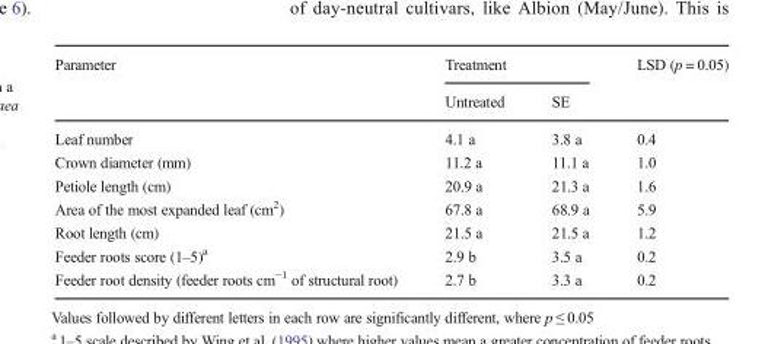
<table><thead><tr><td rowspan="2">Parameter</td><td colspan="2">Treatment</td><td rowspan="2">LSD (p = 0.05)</td></tr><tr><td>Untreated</td><td>SE</td></tr></thead><tbody><tr><td>Leaf number</td><td>4.1 a</td><td>3.8 a</td><td>0.4</td></tr><tr><td>Crown diameter (mm)</td><td>11.2 a</td><td>11.1 a</td><td>1.0</td></tr><tr><td>Petiole length (cm)</td><td>20.9 a</td><td>21.3 a</td><td>1.6</td></tr><tr><td>Area of the most expanded leaf (cm<sup>2</sup>)</td><td>67.8 a</td><td>68.9 a</td><td>5.9</td></tr><tr><td>Root length (cm)</td><td>21.5 a</td><td>21.5 a</td><td>1.2</td></tr><tr><td>Feeder roots score (1–5)<sup>a</sup></td><td>2.9 b</td><td>3.5 a</td><td>0.2</td></tr><tr><td>Feeder root density (feeder roots cm<sup>−1</sup> of structural root)</td><td>2.7 b</td><td>3.3 a</td><td>0.2</td></tr></tbody></table>